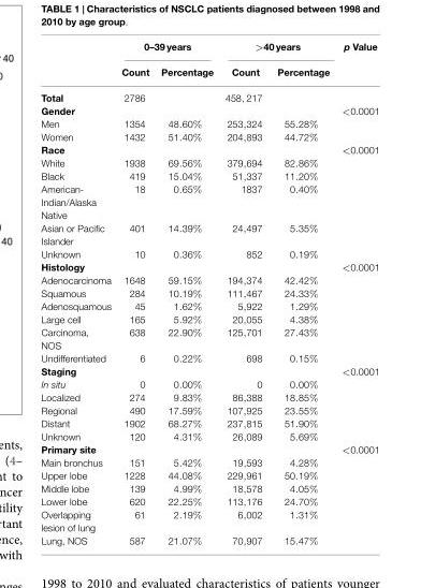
<table><thead><tr><td rowspan="2"></td><td colspan="2">0–39 years</td><td colspan="2">&gt;40 years</td><td rowspan="2">p Value</td></tr><tr><td>Count</td><td>Percentage</td><td>Count</td><td>Percentage</td></tr></thead><tbody><tr><td>Total</td><td>2786</td><td></td><td>458, 217</td><td></td><td></td></tr><tr><td>Gender</td><td></td><td></td><td></td><td></td><td>&lt;0.0001</td></tr><tr><td>Men</td><td>1354</td><td>48.60%</td><td>253,324</td><td>55.28%</td><td></td></tr><tr><td>Women</td><td>1432</td><td>51.40%</td><td>204,893</td><td>44.72%</td><td></td></tr><tr><td>Race</td><td></td><td></td><td></td><td></td><td>&lt;0.0001</td></tr><tr><td>White</td><td>1938</td><td>69.56%</td><td>379,694</td><td>82.86%</td><td></td></tr><tr><td>Black</td><td>419</td><td>15.04%</td><td>51,337</td><td>11.20%</td><td></td></tr><tr><td>American- Indian/Alaska Native</td><td>18</td><td>0.65%</td><td>1837</td><td>0.40%</td><td></td></tr><tr><td>Asian or Pacific Islander</td><td>401</td><td>14.39%</td><td>24,497</td><td>5.35%</td><td></td></tr><tr><td>Unknown</td><td>10</td><td>0.36%</td><td>852</td><td>0.19%</td><td></td></tr><tr><td>Histology</td><td></td><td></td><td></td><td></td><td>&lt;0.0001</td></tr><tr><td>Adenocarcinoma</td><td>1648</td><td>59.15%</td><td>194,374</td><td>42.42%</td><td></td></tr><tr><td>Squamous</td><td>284</td><td>10.19%</td><td>111,467</td><td>24.33%</td><td></td></tr><tr><td>Adenosquamous</td><td>45</td><td>1.62%</td><td>5,922</td><td>1.29%</td><td></td></tr><tr><td>Large cell</td><td>165</td><td>5.92%</td><td>20,055</td><td>4.38%</td><td></td></tr><tr><td>Carcinoma, NOS</td><td>638</td><td>22.90%</td><td>125,701</td><td>27.43%</td><td></td></tr><tr><td>Undifferentiated</td><td>6</td><td>0.22%</td><td>698</td><td>0.15%</td><td></td></tr><tr><td>Staging</td><td></td><td></td><td></td><td></td><td>&lt;0.0001</td></tr><tr><td>In situ</td><td>0</td><td>0.00%</td><td>0</td><td>0.00%</td><td></td></tr><tr><td>Localized</td><td>274</td><td>9.83%</td><td>86,388</td><td>18.85%</td><td></td></tr><tr><td>Regional</td><td>490</td><td>17.59%</td><td>107,925</td><td>23.55%</td><td></td></tr><tr><td>Distant</td><td>1902</td><td>68.27%</td><td>237,815</td><td>51.90%</td><td></td></tr><tr><td>Unknown</td><td>120</td><td>4.31%</td><td>26,089</td><td>5.69%</td><td></td></tr><tr><td>Primary site</td><td></td><td></td><td></td><td></td><td>&lt;0.0001</td></tr><tr><td>Main bronchus</td><td>151</td><td>5.42%</td><td>19,593</td><td>4.28%</td><td></td></tr><tr><td>Upper lobe</td><td>1228</td><td>44.08%</td><td>229,961</td><td>50.19%</td><td></td></tr><tr><td>Middle lobe</td><td>139</td><td>4.99%</td><td>18,578</td><td>4.05%</td><td></td></tr><tr><td>Lower lobe</td><td>620</td><td>22.25%</td><td>113,176</td><td>24.70%</td><td></td></tr><tr><td>Overlapping lesion of lung</td><td>61</td><td>2.19%</td><td>6,002</td><td>1.31%</td><td></td></tr><tr><td>Lung, NOS</td><td>587</td><td>21.07%</td><td>70,907</td><td>15.47%</td><td></td></tr></tbody></table>